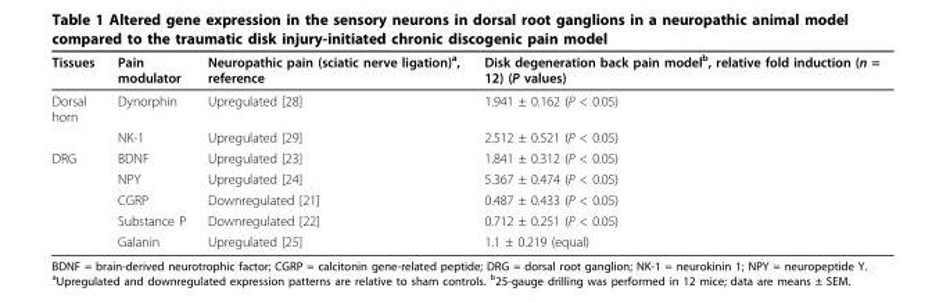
<table><thead><tr><td>Tissues</td><td>Pain modulator</td><td>Neuropathic pain (sciatic nerve ligation)<sup>a</sup>, reference</td><td>Disk degeneration back pain model<sup>b</sup>, relative fold induction (n = 12) (P values)</td></tr></thead><tbody><tr><td rowspan="2">Dorsal horn</td><td>Dynorphin</td><td>Upregulated [28]</td><td>1.941 ± 0.162 (P &lt; 0.05)</td></tr><tr><td>NK-1</td><td>Upregulated [29]</td><td>2.512 ± 0.521 (P &lt; 0.05)</td></tr><tr><td rowspan="5">DRG</td><td>BDNF</td><td>Upregulated [23]</td><td>1.841 ± 0.312 (P &lt; 0.05)</td></tr><tr><td>NPY</td><td>Upregulated [24]</td><td>5.367 ± 0.474 (P &lt; 0.05)</td></tr><tr><td>CGRP</td><td>Downregulated [21]</td><td>0.487 ± 0.433 (P &lt; 0.05)</td></tr><tr><td>Substance P</td><td>Downregulated [22]</td><td>0.712 ± 0.251 (P &lt; 0.05)</td></tr><tr><td>Galanin</td><td>Upregulated [25]</td><td>1.1 ± 0.219 (equal)</td></tr></tbody></table>